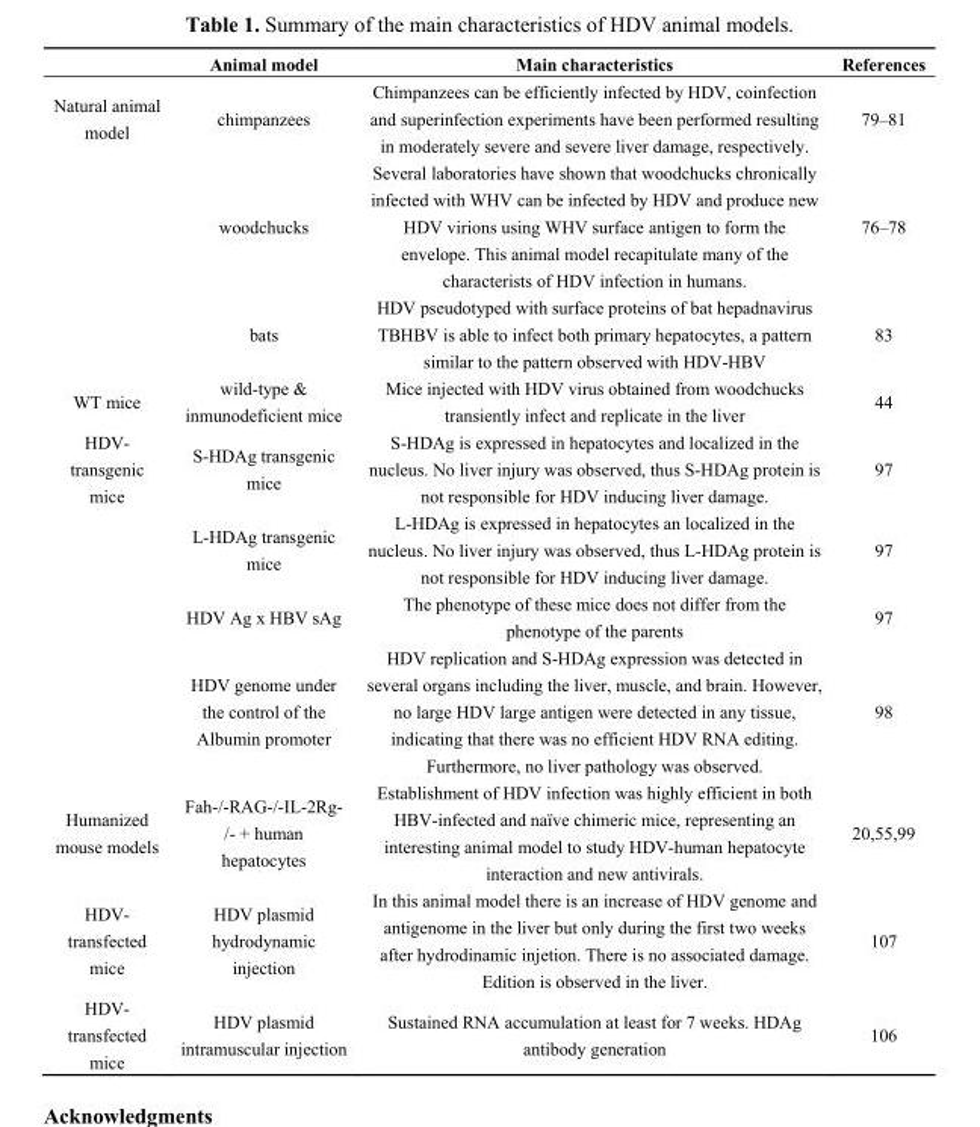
<table><thead><tr><td></td><td>Animal model</td><td>Main characteristics</td><td>References</td></tr></thead><tbody><tr><td rowspan="3">Natural animal model</td><td>chimpanzees</td><td>Chimpanzees can be efficiently infected by HDV, coinfection and superinfection experiments have been performed resulting in moderately severe and severe liver damage, respectively.</td><td>79–81</td></tr><tr><td>woodchucks</td><td>Several laboratories have shown that woodchucks chronically infected with WHV can be infected by HDV and produce new HDV virions using WHV surface antigen to form the envelope. This animal model recapitulate many of the characterists of HDV infection in humans.</td><td>76–78</td></tr><tr><td>bats</td><td>HDV pseudotyped with surface proteins of bat hepadnavirus TBHBV is able to infect both primary hepatocytes, a pattern similar to the pattern observed with HDV-HBV</td><td>83</td></tr><tr><td>WT mice</td><td>wild-type &amp; inmunodeficient mice</td><td>Mice injected with HDV virus obtained from woodchucks transiently infect and replicate in the liver</td><td>44</td></tr><tr><td rowspan="4">HDV- transgenic mice</td><td>S-HDAg transgenic mice</td><td>S-HDAg is expressed in hepatocytes and localized in the nucleus. No liver injury was observed, thus S-HDAg protein is not responsible for HDV inducing liver damage.</td><td>97</td></tr><tr><td>L-HDAg transgenic mice</td><td>L-HDAg is expressed in hepatocytes an localized in the nucleus. No liver injury was observed, thus L-HDAg protein is not responsible for HDV inducing liver damage.</td><td>97</td></tr><tr><td>HDV Ag x HBV sAg</td><td>The phenotype of these mice does not differ from the phenotype of the parents</td><td>97</td></tr><tr><td>HDV genome under the control of the Albumin promoter</td><td>HDV replication and S-HDAg expression was detected in several organs including the liver, muscle, and brain. However, no large HDV large antigen were detected in any tissue, indicating that there was no efficient HDV RNA editing. Furthermore, no liver pathology was observed.</td><td>98</td></tr><tr><td>Humanized mouse models</td><td>Fah-/-RAG-/-IL-2Rg- /- + human hepatocytes</td><td>Establishment of HDV infection was highly efficient in both HBV-infected and naïve chimeric mice, representing an interesting animal model to study HDV-human hepatocyte interaction and new antivirals.</td><td>20,55,99</td></tr><tr><td>HDV- transfected mice</td><td>HDV plasmid hydrodynamic injection</td><td>In this animal model there is an increase of HDV genome and antigenome in the liver but only during the first two weeks after hydrodinamic injetion. There is no associated damage. Edition is observed in the liver.</td><td>107</td></tr><tr><td>HDV- transfected mice</td><td>HDV plasmid intramuscular injection</td><td>Sustained RNA accumulation at least for 7 weeks. HDAg antibody generation</td><td>106</td></tr></tbody></table>